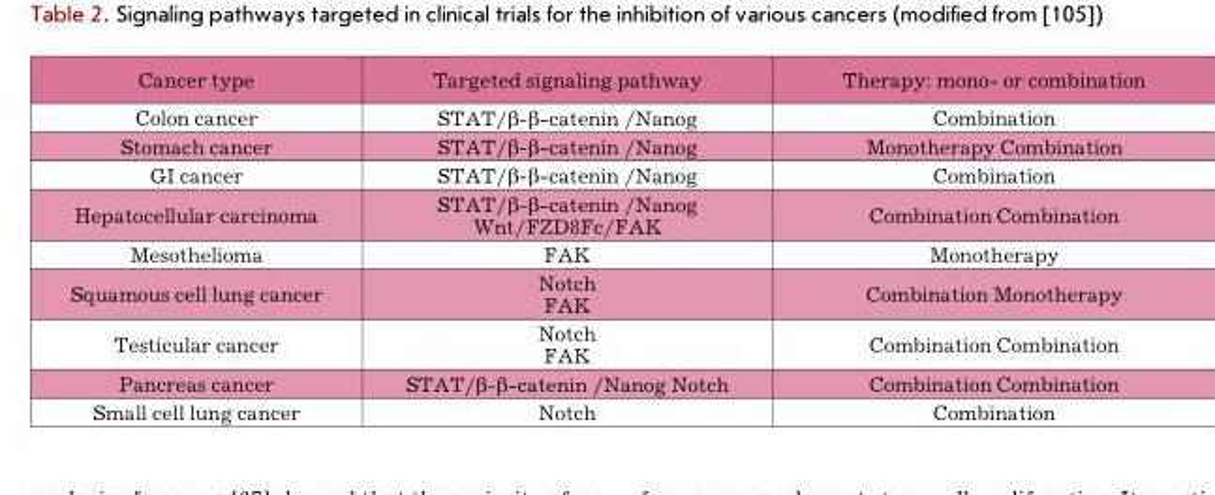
<table><thead><tr><td>Cancer type</td><td>Targeted signaling pathway</td><td>Therapy: mono- or combination</td></tr></thead><tbody><tr><td>Colon cancer</td><td>STAT/β-β-catenin /Nanog</td><td>Combination</td></tr><tr><td>Stomach cancer</td><td>STAT/β-β-catenin /Nanog</td><td>Monotherapy Combination</td></tr><tr><td>GI cancer</td><td>STAT/β-β-catenin /Nanog</td><td>Combination</td></tr><tr><td>Hepatocellular carcinoma</td><td>STAT/β-β-catenin /Nanog Wnt/FZD8Fc/FAK</td><td>Combination Combination</td></tr><tr><td>Mesothelioma</td><td>FAK</td><td>Monotherapy</td></tr><tr><td>Squamous cell lung cancer</td><td>Notch FAK</td><td>Combination Monotherapy</td></tr><tr><td>Testicular cancer</td><td>Notch FAK</td><td>Combination Combination</td></tr><tr><td>Pancreas cancer</td><td>STAT/β-β-catenin /Nanog Notch</td><td>Combination Combination</td></tr><tr><td>Small cell lung cancer</td><td>Notch</td><td>Combination</td></tr></tbody></table>